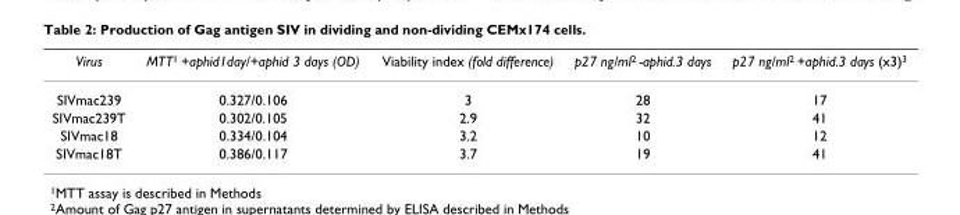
<table><thead><tr><td>Virus</td><td>MTT<sup>1</sup> +aphid1day/+aphid 3 days (OD)</td><td>Viability index (fold difference)</td><td>p27 ng/ml<sup>2</sup> -aphid.3 days</td><td>p27 ng/ml<sup>2</sup> +aphid.3 days (x3)<sup>3</sup></td></tr></thead><tbody><tr><td>SIVmac239</td><td>0.327/0.106</td><td>3</td><td>28</td><td>17</td></tr><tr><td>SIVmac239T</td><td>0.302/0.105</td><td>2.9</td><td>32</td><td>41</td></tr><tr><td>SIVmac18</td><td>0.334/0.104</td><td>3.2</td><td>10</td><td>12</td></tr><tr><td>SIVmac18T</td><td>0.386/0.117</td><td>3.7</td><td>19</td><td>41</td></tr></tbody></table>